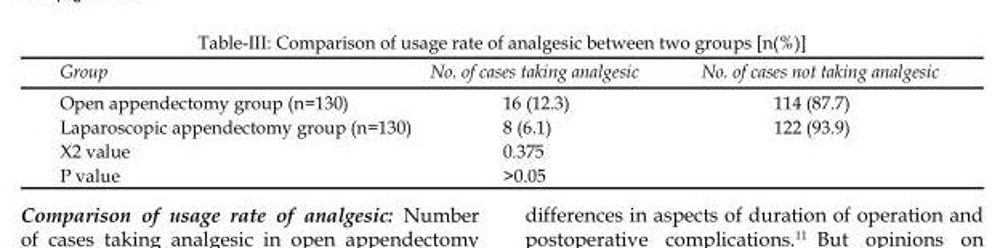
<table><thead><tr><td>Group</td><td>No. of cases taking analgesic</td><td>No. of cases not taking analgesic</td></tr></thead><tbody><tr><td>Open appendectomy group (n=130)</td><td>16 (12.3)</td><td>114 (87.7)</td></tr><tr><td>Laparoscopic appendectomy group (n=130)</td><td>8 (6.1)</td><td>122 (93.9)</td></tr><tr><td>X<sup>2</sup> value</td><td>0.375</td><td></td></tr><tr><td>P value</td><td>&gt;0.05</td><td></td></tr></tbody></table>